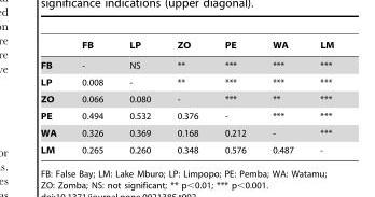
<table><thead><tr><td></td><td>FB</td><td>LP</td><td>ZO</td><td>PE</td><td>WA</td><td>LM</td></tr></thead><tbody><tr><td>FB</td><td>-</td><td>NS</td><td>**</td><td>***</td><td>***</td><td>***</td></tr><tr><td>LP</td><td>0.008</td><td>-</td><td>**</td><td>***</td><td>***</td><td>***</td></tr><tr><td>ZO</td><td>0.066</td><td>0.080</td><td>-</td><td>***</td><td>**</td><td>***</td></tr><tr><td>PE</td><td>0.494</td><td>0.532</td><td>0.376</td><td>-</td><td>***</td><td>***</td></tr><tr><td>WA</td><td>0.326</td><td>0.369</td><td>0.168</td><td>0.212</td><td>-</td><td>***</td></tr><tr><td>LM</td><td>0.265</td><td>0.260</td><td>0.348</td><td>0.576</td><td>0.487</td><td>-</td></tr></tbody></table>